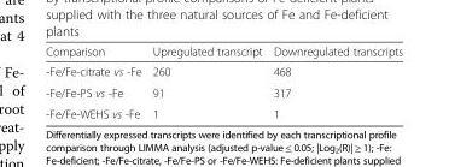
<table><thead><tr><td>Comparison</td><td>Upregulated transcript</td><td>Downregulated transcripts</td></tr></thead><tbody><tr><td>-Fe/Fe-citrate vs -Fe</td><td>260</td><td>468</td></tr><tr><td>-Fe/Fe-PS vs -Fe</td><td>91</td><td>317</td></tr><tr><td>-Fe/Fe-WEHS vs -Fe</td><td>1</td><td>1</td></tr></tbody></table>